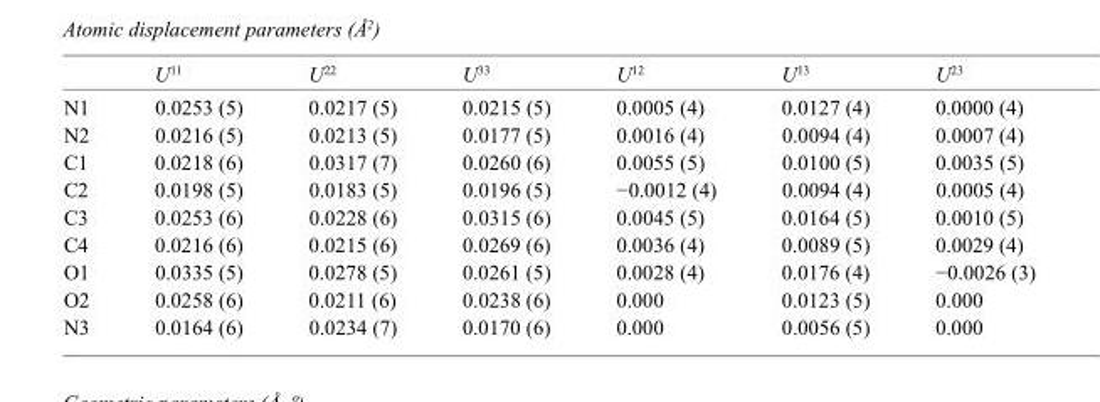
<table><thead><tr><td></td><td>U<sup>11</sup></td><td>U<sup>22</sup></td><td>U<sup>33</sup></td><td>U<sup>12</sup></td><td>U<sup>13</sup></td><td>U<sup>23</sup></td></tr></thead><tbody><tr><td>N1</td><td>0.0253 (5)</td><td>0.0217 (5)</td><td>0.0215 (5)</td><td>0.0005 (4)</td><td>0.0127 (4)</td><td>0.0000 (4)</td></tr><tr><td>N2</td><td>0.0216 (5)</td><td>0.0213 (5)</td><td>0.0177 (5)</td><td>0.0016 (4)</td><td>0.0094 (4)</td><td>0.0007 (4)</td></tr><tr><td>C1</td><td>0.0218 (6)</td><td>0.0317 (7)</td><td>0.0260 (6)</td><td>0.0055 (5)</td><td>0.0100 (5)</td><td>0.0035 (5)</td></tr><tr><td>C2</td><td>0.0198 (5)</td><td>0.0183 (5)</td><td>0.0196 (5)</td><td>−0.0012 (4)</td><td>0.0094 (4)</td><td>0.0005 (4)</td></tr><tr><td>C3</td><td>0.0253 (6)</td><td>0.0228 (6)</td><td>0.0315 (6)</td><td>0.0045 (5)</td><td>0.0164 (5)</td><td>0.0010 (5)</td></tr><tr><td>C4</td><td>0.0216 (6)</td><td>0.0215 (6)</td><td>0.0269 (6)</td><td>0.0036 (4)</td><td>0.0089 (5)</td><td>0.0029 (4)</td></tr><tr><td>O1</td><td>0.0335 (5)</td><td>0.0278 (5)</td><td>0.0261 (5)</td><td>0.0028 (4)</td><td>0.0176 (4)</td><td>−0.0026 (3)</td></tr><tr><td>O2</td><td>0.0258 (6)</td><td>0.0211 (6)</td><td>0.0238 (6)</td><td>0.000</td><td>0.0123 (5)</td><td>0.000</td></tr><tr><td>N3</td><td>0.0164 (6)</td><td>0.0234 (7)</td><td>0.0170 (6)</td><td>0.000</td><td>0.0056 (5)</td><td>0.000</td></tr></tbody></table>